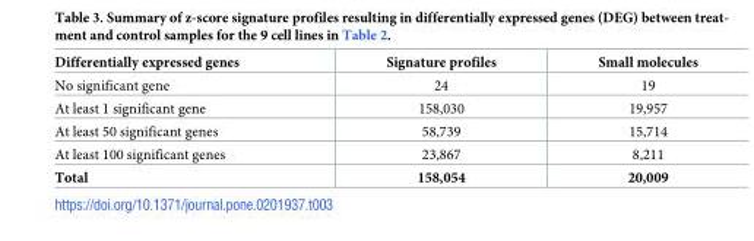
<table><thead><tr><td>Differentially expressed genes</td><td>Signature profiles</td><td>Small molecules</td></tr></thead><tbody><tr><td>No significant gene</td><td>24</td><td>19</td></tr><tr><td>At least 1 significant gene</td><td>158,030</td><td>19,957</td></tr><tr><td>At least 50 significant genes</td><td>58,739</td><td>15,714</td></tr><tr><td>At least 100 significant genes</td><td>23,867</td><td>8,211</td></tr><tr><td>Total</td><td>158,054</td><td>20,009</td></tr></tbody></table>